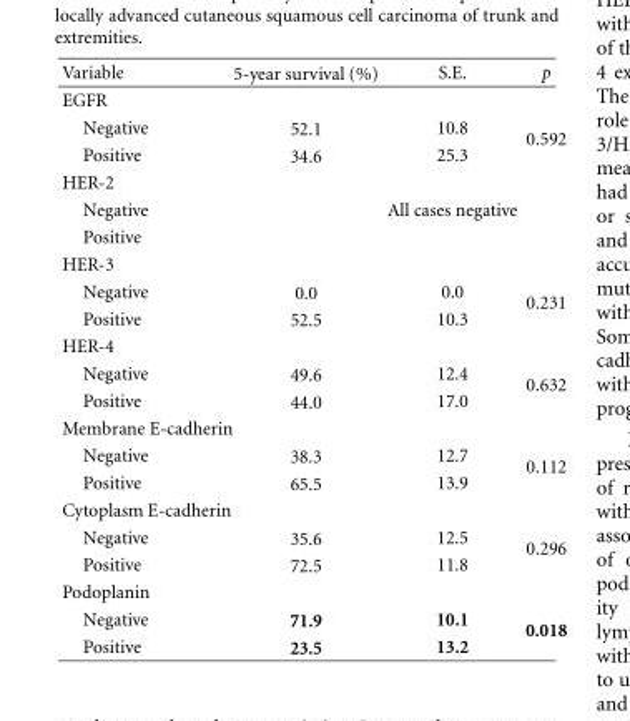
<table><thead><tr><td>Variable</td><td>5-year survival (%)</td><td>S.E.</td><td>p</td></tr></thead><tbody><tr><td colspan="4">EGFR</td></tr><tr><td>Negative</td><td>52.1</td><td>10.8</td><td rowspan="2">0.592</td></tr><tr><td>Positive</td><td>34.6</td><td>25.3</td></tr><tr><td colspan="4">HER-2</td></tr><tr><td>Negative</td><td></td><td>All cases negative</td><td></td></tr><tr><td colspan="4">Positive</td></tr><tr><td colspan="4">HER-3</td></tr><tr><td>Negative</td><td>0.0</td><td>0.0</td><td rowspan="2">0.231</td></tr><tr><td>Positive</td><td>52.5</td><td>10.3</td></tr><tr><td colspan="4">HER-4</td></tr><tr><td>Negative</td><td>49.6</td><td>12.4</td><td rowspan="2">0.632</td></tr><tr><td>Positive</td><td>44.0</td><td>17.0</td></tr><tr><td colspan="4">Membrane E-cadherin</td></tr><tr><td>Negative</td><td>38.3</td><td>12.7</td><td rowspan="2">0.112</td></tr><tr><td>Positive</td><td>65.5</td><td>13.9</td></tr><tr><td colspan="4">Cytoplasm E-cadherin</td></tr><tr><td>Negative</td><td>35.6</td><td>12.5</td><td rowspan="2">0.296</td></tr><tr><td>Positive</td><td>72.5</td><td>11.8</td></tr><tr><td colspan="4">Podoplanin</td></tr><tr><td>Negative</td><td>71.9</td><td>10.1</td><td rowspan="2">0.018</td></tr><tr><td>Positive</td><td>23.5</td><td>13.2</td></tr></tbody></table>